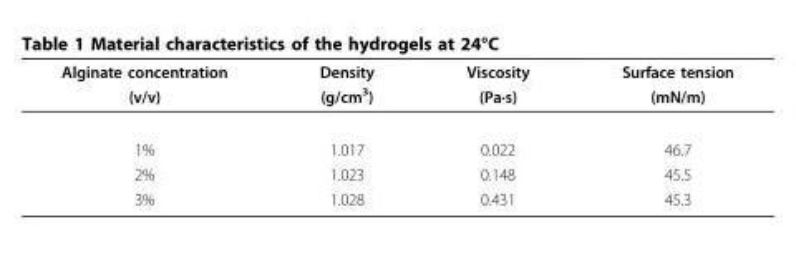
<table><thead><tr><td rowspan="2">Alginate concentration (v/v)</td><td rowspan="2">Density (g/cm<sup>3</sup>)</td><td rowspan="2">Viscosity (Pa·s)</td><td rowspan="2">Surface tension (mN/m)</td></tr><tr></tr></thead><tbody><tr><td>1%</td><td>1.017</td><td>0.022</td><td>46.7</td></tr><tr><td>2%</td><td>1.023</td><td>0.148</td><td>45.5</td></tr><tr><td>3%</td><td>1.028</td><td>0.431</td><td>45.3</td></tr></tbody></table>